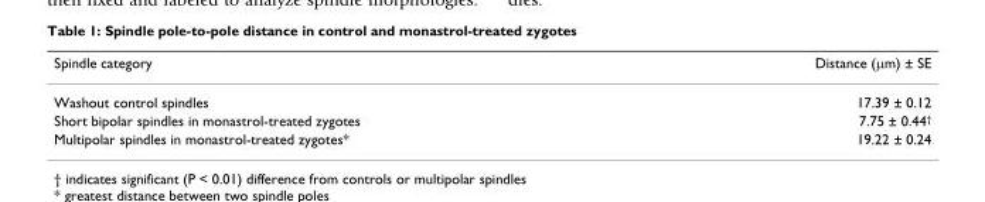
<table><thead><tr><td>Spindle category</td><td>Distance (μm) ± SE</td></tr></thead><tbody><tr><td>Washout control spindles</td><td>17.39 ± 0.12</td></tr><tr><td>Short bipolar spindles in monastrol-treated zygotes</td><td>7.75 ± 0.44<sup>†</sup></td></tr><tr><td>Multipolar spindles in monastrol-treated zygotes*</td><td>19.22 ± 0.24</td></tr></tbody></table>